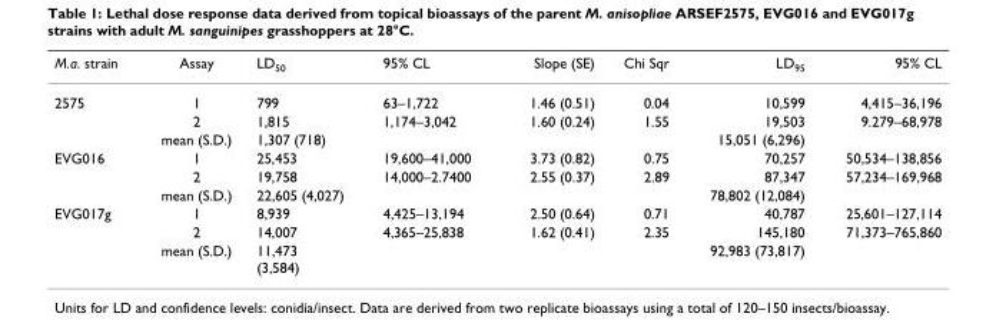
<table><thead><tr><td>M.a. strain</td><td>Assay</td><td>LD<sub>50</sub></td><td>95% CL</td><td>Slope (SE)</td><td>Chi Sqr</td><td>LD<sub>95</sub></td><td>95% CL</td></tr></thead><tbody><tr><td rowspan="3">2575</td><td>1</td><td>799</td><td>63–1,722</td><td>1.46 (0.51)</td><td>0.04</td><td>10,599</td><td>4,415–36,196</td></tr><tr><td>2</td><td>1,815</td><td>1,174–3,042</td><td>1.60 (0.24)</td><td>1.55</td><td>19,503</td><td>9.279–68,978</td></tr><tr><td>mean (S.D.)</td><td>1,307 (718)</td><td></td><td></td><td></td><td>15,051 (6,296)</td><td></td></tr><tr><td rowspan="3">EVG016</td><td>1</td><td>25,453</td><td>19,600–41,000</td><td>3.73 (0.82)</td><td>0.75</td><td>70,257</td><td>50,534–138,856</td></tr><tr><td>2</td><td>19,758</td><td>14,000–2.7400</td><td>2.55 (0.37)</td><td>2.89</td><td>87,347</td><td>57,234–169,968</td></tr><tr><td>mean (S.D.)</td><td>22,605 (4,027)</td><td></td><td></td><td></td><td>78,802 (12,084)</td><td></td></tr><tr><td rowspan="3">EVG017g</td><td>1</td><td>8,939</td><td>4,425–13,194</td><td>2.50 (0.64)</td><td>0.71</td><td>40,787</td><td>25,601–127,114</td></tr><tr><td>2</td><td>14,007</td><td>4,365–25,838</td><td>1.62 (0.41)</td><td>2.35</td><td>145,180</td><td>71,373–765,860</td></tr><tr><td>mean (S.D.)</td><td>11,473 (3,584)</td><td></td><td></td><td></td><td>92,983 (73,817)</td><td></td></tr></tbody></table>